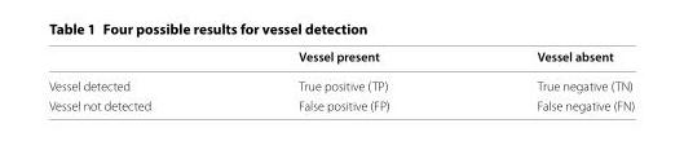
<table><thead><tr><td></td><td>Vessel present</td><td>Vessel absent</td></tr></thead><tbody><tr><td>Vessel detected</td><td>True positive (TP)</td><td>True negative (TN)</td></tr><tr><td>Vessel not detected</td><td>False positive (FP)</td><td>False negative (FN)</td></tr></tbody></table>